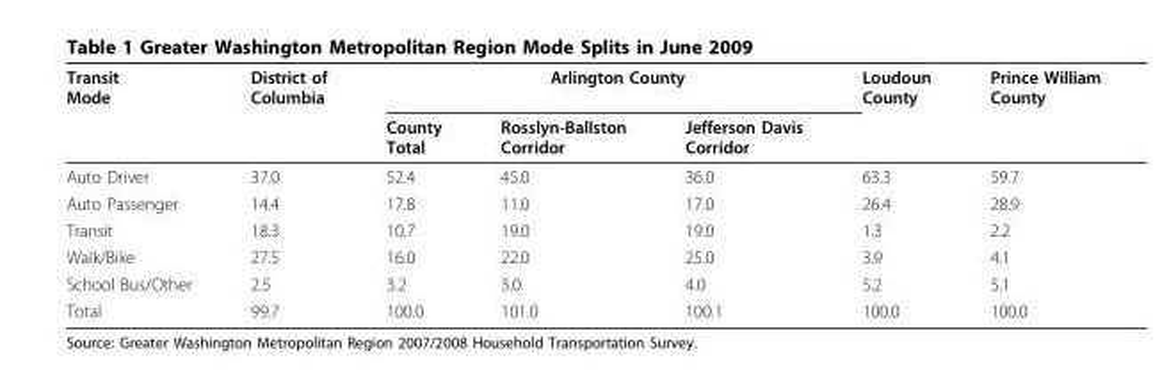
<table><thead><tr><td rowspan="2">Transit Mode</td><td rowspan="2">District of Columbia</td><td colspan="3">Arlington County</td><td rowspan="2">Loudoun County</td><td rowspan="2">Prince William County</td></tr><tr><td>County Total</td><td>Rosslyn-Ballston Corridor</td><td>Jefferson Davis Corridor</td></tr></thead><tbody><tr><td>Auto Driver</td><td>37.0</td><td>52.4</td><td>45.0</td><td>36.0</td><td>63.3</td><td>59.7</td></tr><tr><td>Auto Passenger</td><td>14.4</td><td>17.8</td><td>11.0</td><td>17.0</td><td>26.4</td><td>28.9</td></tr><tr><td>Transit</td><td>18.3</td><td>10.7</td><td>19.0</td><td>19.0</td><td>1.3</td><td>2.2</td></tr><tr><td>Walk/Bike</td><td>27.5</td><td>16.0</td><td>22.0</td><td>25.0</td><td>3.9</td><td>4.1</td></tr><tr><td>School Bus/Other</td><td>2.5</td><td>3.2</td><td>3.0</td><td>4.0</td><td>5.2</td><td>5.1</td></tr><tr><td>Total</td><td>99.7</td><td>100.0</td><td>101.0</td><td>100.1</td><td>100.0</td><td>100.0</td></tr></tbody></table>